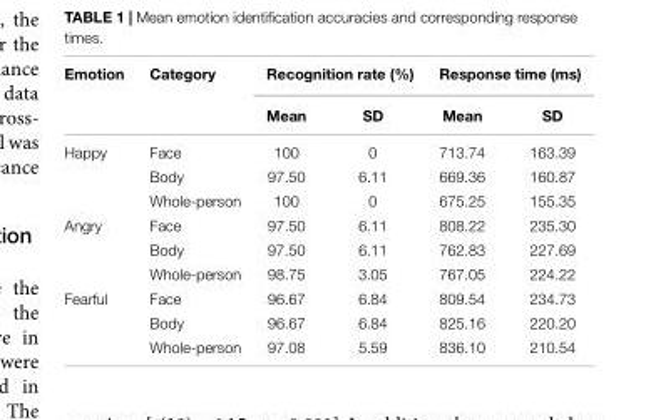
<table><thead><tr><td rowspan="2">Emotion</td><td rowspan="2">Category</td><td colspan="2">Recognition rate (%)</td><td colspan="2">Response time (ms)</td></tr><tr><td>Mean</td><td>SD</td><td>Mean</td><td>SD</td></tr></thead><tbody><tr><td rowspan="3">Happy</td><td>Face</td><td>100</td><td>0</td><td>713.74</td><td>163.39</td></tr><tr><td>Body</td><td>97.50</td><td>6.11</td><td>669.36</td><td>160.87</td></tr><tr><td>Whole-person</td><td>100</td><td>0</td><td>675.25</td><td>155.35</td></tr><tr><td rowspan="3">Angry</td><td>Face</td><td>97.50</td><td>6.11</td><td>808.22</td><td>235.30</td></tr><tr><td>Body</td><td>97.50</td><td>6.11</td><td>762.83</td><td>227.69</td></tr><tr><td>Whole-person</td><td>98.75</td><td>3.05</td><td>767.05</td><td>224.22</td></tr><tr><td rowspan="3">Fearful</td><td>Face</td><td>96.67</td><td>6.84</td><td>809.54</td><td>234.73</td></tr><tr><td>Body</td><td>96.67</td><td>6.84</td><td>825.16</td><td>220.20</td></tr><tr><td>Whole-person</td><td>97.08</td><td>5.59</td><td>836.10</td><td>210.54</td></tr></tbody></table>